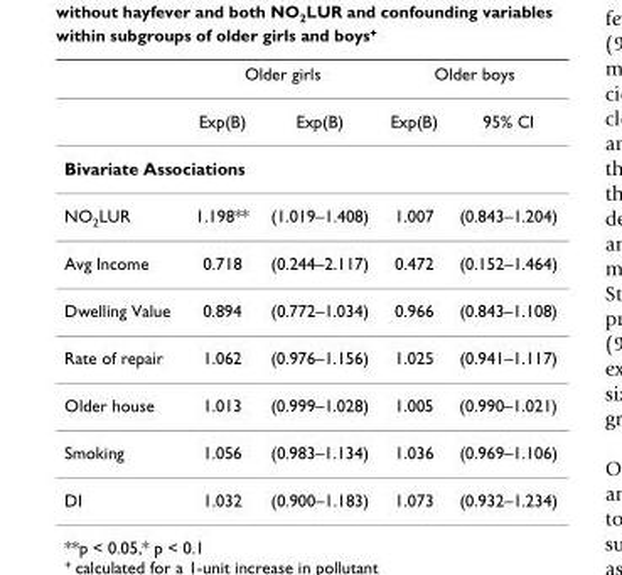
<table><thead><tr><td rowspan="2"></td><td colspan="2">Older girls</td><td colspan="2">Older boys</td></tr><tr><td>Exp(B)</td><td>Exp(B)</td><td>Exp(B)</td><td>95% CI</td></tr></thead><tbody><tr><td colspan="5">Bivariate Associations</td></tr><tr><td>NO<sub>2</sub>LUR</td><td>1.198**</td><td>(1.019–1.408)</td><td>1.007</td><td>(0.843–1.204)</td></tr><tr><td>Avg Income</td><td>0.718</td><td>(0.244–2.117)</td><td>0.472</td><td>(0.152–1.464)</td></tr><tr><td>Dwelling Value</td><td>0.894</td><td>(0.772–1.034)</td><td>0.966</td><td>(0.843–1.108)</td></tr><tr><td>Rate of repair</td><td>1.062</td><td>(0.976–1.156)</td><td>1.025</td><td>(0.941–1.117)</td></tr><tr><td>Older house</td><td>1.013</td><td>(0.999–1.028)</td><td>1.005</td><td>(0.990–1.021)</td></tr><tr><td>Smoking</td><td>1.056</td><td>(0.983–1.134)</td><td>1.036</td><td>(0.969–1.106)</td></tr><tr><td>DI</td><td>1.032</td><td>(0.900–1.183)</td><td>1.073</td><td>(0.932–1.234)</td></tr></tbody></table>